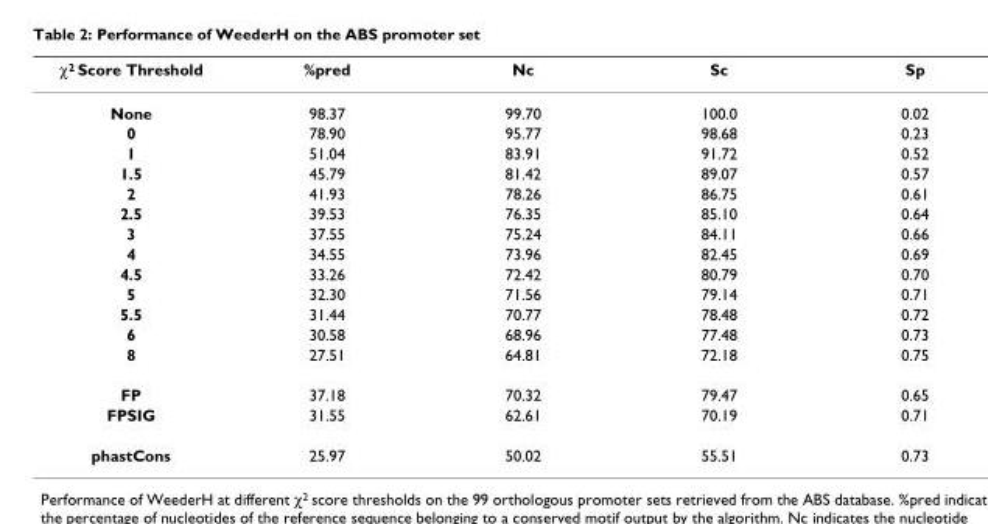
<table><thead><tr><td>χ2 Score Threshold</td><td>%pred</td><td>Nc</td><td>Sc</td><td>Sp</td></tr></thead><tbody><tr><td>None</td><td>98.37</td><td>99.70</td><td>100.0</td><td>0.02</td></tr><tr><td>0</td><td>78.90</td><td>95.77</td><td>98.68</td><td>0.23</td></tr><tr><td>1</td><td>51.04</td><td>83.91</td><td>91.72</td><td>0.52</td></tr><tr><td>1.5</td><td>45.79</td><td>81.42</td><td>89.07</td><td>0.57</td></tr><tr><td>2</td><td>41.93</td><td>78.26</td><td>86.75</td><td>0.61</td></tr><tr><td>2.5</td><td>39.53</td><td>76.35</td><td>85.10</td><td>0.64</td></tr><tr><td>3</td><td>37.55</td><td>75.24</td><td>84.11</td><td>0.66</td></tr><tr><td>4</td><td>34.55</td><td>73.96</td><td>82.45</td><td>0.69</td></tr><tr><td>4.5</td><td>33.26</td><td>72.42</td><td>80.79</td><td>0.70</td></tr><tr><td>5</td><td>32.30</td><td>71.56</td><td>79.14</td><td>0.71</td></tr><tr><td>5.5</td><td>31.44</td><td>70.77</td><td>78.48</td><td>0.72</td></tr><tr><td>6</td><td>30.58</td><td>68.96</td><td>77.48</td><td>0.73</td></tr><tr><td>8</td><td>27.51</td><td>64.81</td><td>72.18</td><td>0.75</td></tr><tr><td>FP</td><td>37.18</td><td>70.32</td><td>79.47</td><td>0.65</td></tr><tr><td>FPSIG</td><td>31.55</td><td>62.61</td><td>70.19</td><td>0.71</td></tr><tr><td>phastCons</td><td>25.97</td><td>50.02</td><td>55.51</td><td>0.73</td></tr></tbody></table>